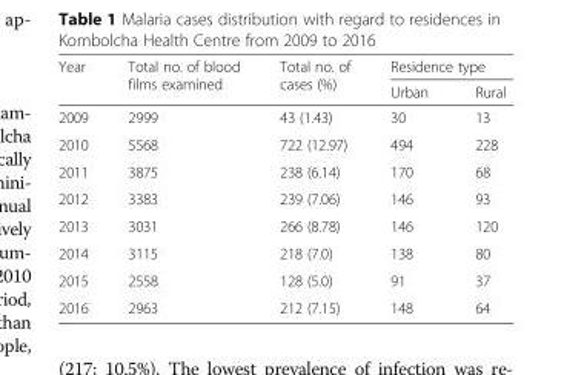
<table><thead><tr><td rowspan="2">Year</td><td rowspan="2">Total no. of blood films examined</td><td rowspan="2">Total no. of cases (%)</td><td colspan="2">Residence type</td></tr><tr><td>Urban</td><td>Rural</td></tr></thead><tbody><tr><td>2009</td><td>2999</td><td>43 (1.43)</td><td>30</td><td>13</td></tr><tr><td>2010</td><td>5568</td><td>722 (12.97)</td><td>494</td><td>228</td></tr><tr><td>2011</td><td>3875</td><td>238 (6.14)</td><td>170</td><td>68</td></tr><tr><td>2012</td><td>3383</td><td>239 (7.06)</td><td>146</td><td>93</td></tr><tr><td>2013</td><td>3031</td><td>266 (8.78)</td><td>146</td><td>120</td></tr><tr><td>2014</td><td>3115</td><td>218 (7.0)</td><td>138</td><td>80</td></tr><tr><td>2015</td><td>2558</td><td>128 (5.0)</td><td>91</td><td>37</td></tr><tr><td>2016</td><td>2963</td><td>212 (7.15)</td><td>148</td><td>64</td></tr></tbody></table>